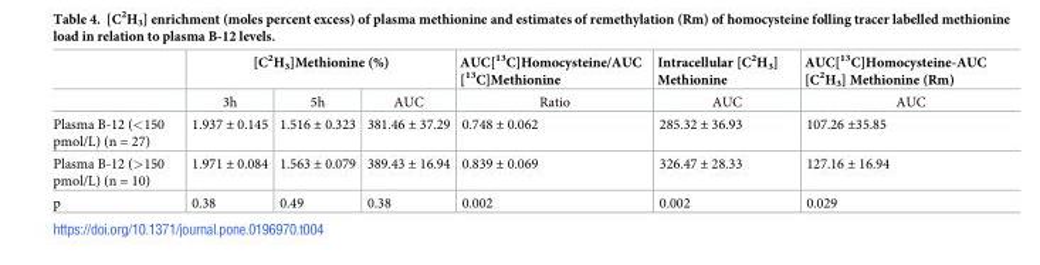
<table><thead><tr><td rowspan="2"></td><td colspan="3">[C<sup>2</sup>H<sub>3</sub>]Methionine (%)</td><td rowspan="2">AUC[<sup>13</sup>C]Homocysteine/AUC [<sup>13</sup>C]Methionine Ratio</td><td rowspan="2">Intracellular [C<sup>2</sup>H<sub>3</sub>] Methionine AUC</td><td rowspan="2">AUC[<sup>13</sup>C]Homocysteine-AUC [C<sup>2</sup>H<sub>3</sub>] Methionine (Rm) AUC</td></tr><tr><td>3h</td><td>5h</td><td>AUC</td></tr></thead><tbody><tr><td>Plasma B-12 (&lt;150 pmol/L) (n = 27)</td><td>1.937 ± 0.145</td><td>1.516 ± 0.323</td><td>381.46 ± 37.29</td><td>0.748 ± 0.062</td><td>285.32 ± 36.93</td><td>107.26 ±35.85</td></tr><tr><td>Plasma B-12 (&gt;150 pmol/L) (n = 10)</td><td>1.971 ± 0.084</td><td>1.563 ± 0.079</td><td>389.43 ± 16.94</td><td>0.839 ± 0.069</td><td>326.47 ± 28.33</td><td>127.16 ± 16.94</td></tr><tr><td>p</td><td>0.38</td><td>0.49</td><td>0.38</td><td>0.002</td><td>0.002</td><td>0.029</td></tr></tbody></table>